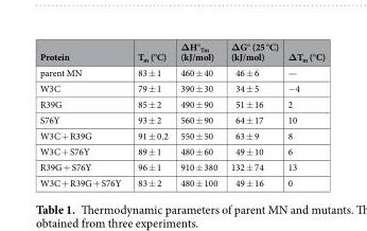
<table><thead><tr><td>Protein</td><td>T<sub>m</sub> (°C)</td><td>ΔH°<sub>Tm</sub> (kJ/mol)</td><td>ΔG° (25 °C) (kJ/mol)</td><td>ΔT<sub>m</sub> (°C)</td></tr></thead><tbody><tr><td>parent MN</td><td>83 ± 1</td><td>460 ± 40</td><td>46 ± 6</td><td>—</td></tr><tr><td>W3C</td><td>79 ± 1</td><td>390 ± 30</td><td>34 ± 5</td><td>−4</td></tr><tr><td>R39G</td><td>85 ± 2</td><td>490 ± 90</td><td>51 ± 16</td><td>2</td></tr><tr><td>S76Y</td><td>93 ± 2</td><td>560 ± 90</td><td>64 ± 17</td><td>10</td></tr><tr><td>W3C + R39G</td><td>91 ± 0.2</td><td>550 ± 50</td><td>63 ± 9</td><td>8</td></tr><tr><td>W3C + S76Y</td><td>89 ± 1</td><td>480 ± 60</td><td>49 ± 10</td><td>6</td></tr><tr><td>R39G + S76Y</td><td>96 ± 1</td><td>910 ± 380</td><td>132 ± 74</td><td>13</td></tr><tr><td>W3C + R39G + S76Y</td><td>83 ± 2</td><td>480 ± 100</td><td>49 ± 16</td><td>0</td></tr></tbody></table>